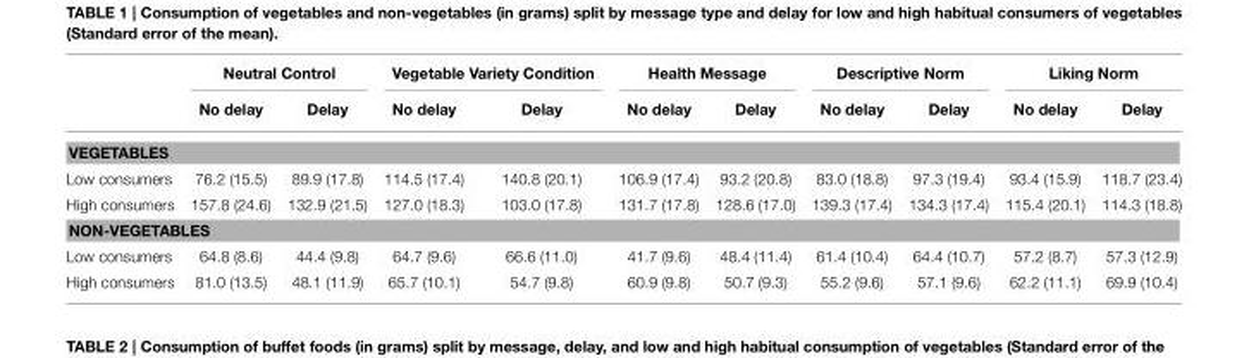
<table><thead><tr><td rowspan="2"></td><td colspan="2">Neutral Control</td><td colspan="2">Vegetable Variety Condition</td><td colspan="2">Health Message</td><td colspan="2">Descriptive Norm</td><td colspan="2">Liking Norm</td></tr><tr><td>No delay</td><td>Delay</td><td>No delay</td><td>Delay</td><td>No delay</td><td>Delay</td><td>No delay</td><td>Delay</td><td>No delay</td><td>Delay</td></tr></thead><tbody><tr><td colspan="11">VEGETABLES</td></tr><tr><td>Low consumers</td><td>76.2 (15.5)</td><td>89.9 (17.8)</td><td>114.5 (17.4)</td><td>140.8 (20.1)</td><td>106.9 (17.4)</td><td>93.2 (20.8)</td><td>83.0 (18.8)</td><td>97.3 (19.4)</td><td>93.4 (15.9)</td><td>118.7 (23.4)</td></tr><tr><td>High consumers</td><td>157.8 (24.6)</td><td>132.9 (21.5)</td><td>127.0 (18.3)</td><td>103.0 (17.8)</td><td>131.7 (17.8)</td><td>128.6 (17.0)</td><td>139.3 (17.4)</td><td>134.3 (17.4)</td><td>115.4 (20.1)</td><td>114.3 (18.8)</td></tr><tr><td colspan="11">NON-VEGETABLES</td></tr><tr><td>Low consumers</td><td>64.8 (8.6)</td><td>44.4 (9.8)</td><td>64.7 (9.6)</td><td>66.6 (11.0)</td><td>41.7 (9.6)</td><td>48.4 (11.4)</td><td>61.4 (10.4)</td><td>64.4 (10.7)</td><td>57.2 (8.7)</td><td>57.3 (12.9)</td></tr><tr><td>High consumers</td><td>81.0 (13.5)</td><td>48.1 (11.9)</td><td>65.7 (10.1)</td><td>54.7 (9.8)</td><td>60.9 (9.8)</td><td>50.7 (9.3)</td><td>55.2 (9.6)</td><td>57.1 (9.6)</td><td>62.2 (11.1)</td><td>69.9 (10.4)</td></tr></tbody></table>